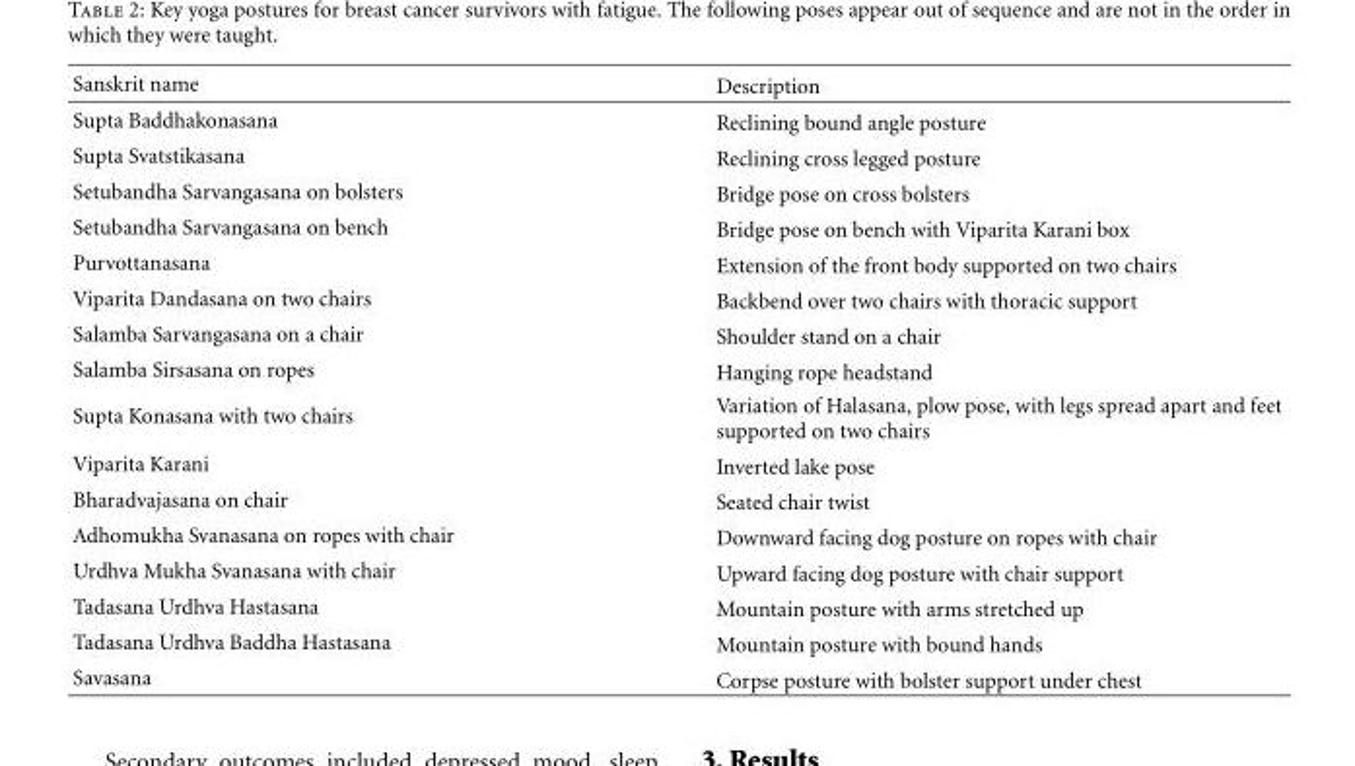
<table><thead><tr><td>Sanskrit name</td><td>Description</td></tr></thead><tbody><tr><td>Supta Baddhakonasana</td><td>Reclining bound angle posture</td></tr><tr><td>Supta Svatstikasana</td><td>Reclining cross legged posture</td></tr><tr><td>Setubandha Sarvangasana on bolsters</td><td>Bridge pose on cross bolsters</td></tr><tr><td>Setubandha Sarvangasana on bench</td><td>Bridge pose on bench with Viparita Karani box</td></tr><tr><td>Purvottanasana</td><td>Extension of the front body supported on two chairs</td></tr><tr><td>Viparita Dandasana on two chairs</td><td>Backbend over two chairs with thoracic support</td></tr><tr><td>Salamba Sarvangasana on a chair</td><td>Shoulder stand on a chair</td></tr><tr><td>Salamba Sirsasana on ropes</td><td>Hanging rope headstand</td></tr><tr><td>Supta Konasana with two chairs</td><td>Variation of Halasana, plow pose, with legs spread apart and feet supported on two chairs</td></tr><tr><td>Viparita Karani</td><td>Inverted lake pose</td></tr><tr><td>Bharadvajasana on chair</td><td>Seated chair twist</td></tr><tr><td>Adhomukha Svanasana on ropes with chair</td><td>Downward facing dog posture on ropes with chair</td></tr><tr><td>Urdhva Mukha Svanasana with chair</td><td>Upward facing dog posture with chair support</td></tr><tr><td>Tadasana Urdhva Hastasana</td><td>Mountain posture with arms stretched up</td></tr><tr><td>Tadasana Urdhva Baddha Hastasana</td><td>Mountain posture with bound hands</td></tr><tr><td>Savasana</td><td>Corpse posture with bolster support under chest</td></tr></tbody></table>